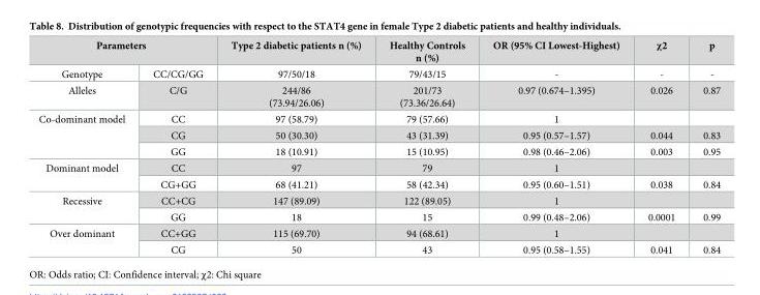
<table><thead><tr><td colspan="2">Parameters</td><td rowspan="2">Type 2 diabetic patients n (%) 97/50/18</td><td rowspan="2">Healthy Controls n (%) 79/43/15</td><td rowspan="2">OR (95% CI Lowest-Highest) -</td><td rowspan="2">χ2 -</td><td rowspan="2">p -</td></tr><tr><td>Genotype</td><td>CC/CG/GG</td></tr></thead><tbody><tr><td>Alleles</td><td>C/G</td><td>244/86 (73.94/26.06)</td><td>201/73 (73.36/26.64)</td><td>0.97 (0.674–1.395)</td><td>0.026</td><td>0.87</td></tr><tr><td rowspan="3">Co-dominant model</td><td>CC</td><td>97 (58.79)</td><td>79 (57.66)</td><td>1</td><td></td><td></td></tr><tr><td>CG</td><td>50 (30.30)</td><td>43 (31.39)</td><td>0.95 (0.57–1.57)</td><td>0.044</td><td>0.83</td></tr><tr><td>GG</td><td>18 (10.91)</td><td>15 (10.95)</td><td>0.98 (0.46–2.06)</td><td>0.003</td><td>0.95</td></tr><tr><td rowspan="2">Dominant model</td><td>CC</td><td>97</td><td>79</td><td>1</td><td></td><td></td></tr><tr><td>CG+GG</td><td>68 (41.21)</td><td>58 (42.34)</td><td>0.95 (0.60–1.51)</td><td>0.038</td><td>0.84</td></tr><tr><td rowspan="2">Recessive</td><td>CC+CG</td><td>147 (89.09)</td><td>122 (89.05)</td><td>1</td><td></td><td></td></tr><tr><td>GG</td><td>18</td><td>15</td><td>0.99 (0.48–2.06)</td><td>0.0001</td><td>0.99</td></tr><tr><td rowspan="2">Over dominant</td><td>CC+GG</td><td>115 (69.70)</td><td>94 (68.61)</td><td>1</td><td></td><td></td></tr><tr><td>CG</td><td>50</td><td>43</td><td>0.95 (0.58–1.55)</td><td>0.041</td><td>0.84</td></tr></tbody></table>